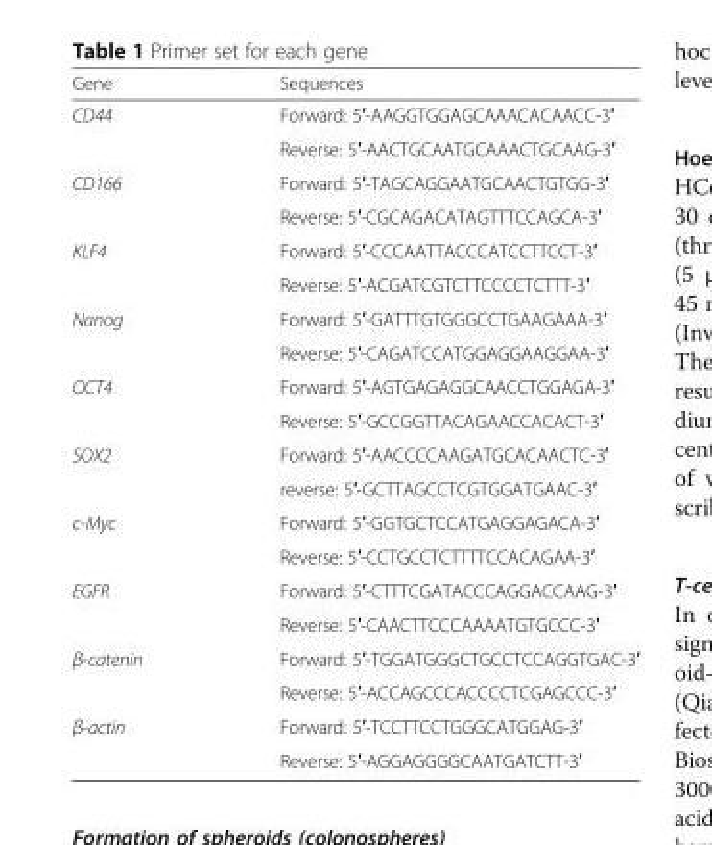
<table><thead><tr><td>Gene</td><td>Sequences</td></tr></thead><tbody><tr><td rowspan="2">CD44</td><td>Forward: 5′-AAGGTGGAGCAAACACAACC-3′</td></tr><tr><td>Reverse: 5′-AACTGCAATGCAAACTGCAAG-3′</td></tr><tr><td rowspan="2">CD166</td><td>Forward: 5′-TAGCAGGAATGCAACTGTGG-3′</td></tr><tr><td>Reverse: 5′-CGCAGACATAGTTTCCAGCA-3′</td></tr><tr><td rowspan="2">KLF4</td><td>Forward: 5′-CCCAATTACCCATCCTTCCT-3′</td></tr><tr><td>Reverse: 5′-ACGATCGTCTTCCCCTCTTT-3′</td></tr><tr><td rowspan="2">Nanog</td><td>Forward: 5′-GATTTGTGGGCCTGAAGAAA-3′</td></tr><tr><td>Reverse: 5′-CAGATCCATGGAGGAAGGAA-3′</td></tr><tr><td rowspan="2">OCT4</td><td>Forward: 5′-AGTGAGAGGCAACCTGGAGA-3′</td></tr><tr><td>Reverse: 5′-GCCGGTTACAGAACCACACT-3′</td></tr><tr><td rowspan="2">SOX2</td><td>Forward: 5′-AACCCCAAGATGCACAACTC-3′</td></tr><tr><td>reverse: 5′-GCTTAGCCTCGTGGATGAAC-3′</td></tr><tr><td rowspan="2">c-Myc</td><td>Forward: 5′-GGTGCTCCATGAGGAGACA-3′</td></tr><tr><td>Reverse: 5′-CCTGCCTCTTTTCCACAGAA-3′</td></tr><tr><td rowspan="2">EGFR</td><td>Forward: 5′-CTTTCGATACCCAGGACCAAG-3′</td></tr><tr><td>Reverse: 5′-CAACTTCCCAAAATGTGCCC-3′</td></tr><tr><td rowspan="2">β-catenin</td><td>Forward: 5′-TGGATGGGCTGCCTCCAGGTGAC-3′</td></tr><tr><td>Reverse: 5′-ACCAGCCCACCCCTCGAGCCC-3′</td></tr><tr><td rowspan="2">β-actin</td><td>Forward: 5′-TCCTTCCTGGGCATGGAG-3′</td></tr><tr><td>Reverse: 5′-AGGAGGGGCAATGATCTT-3′</td></tr></tbody></table>